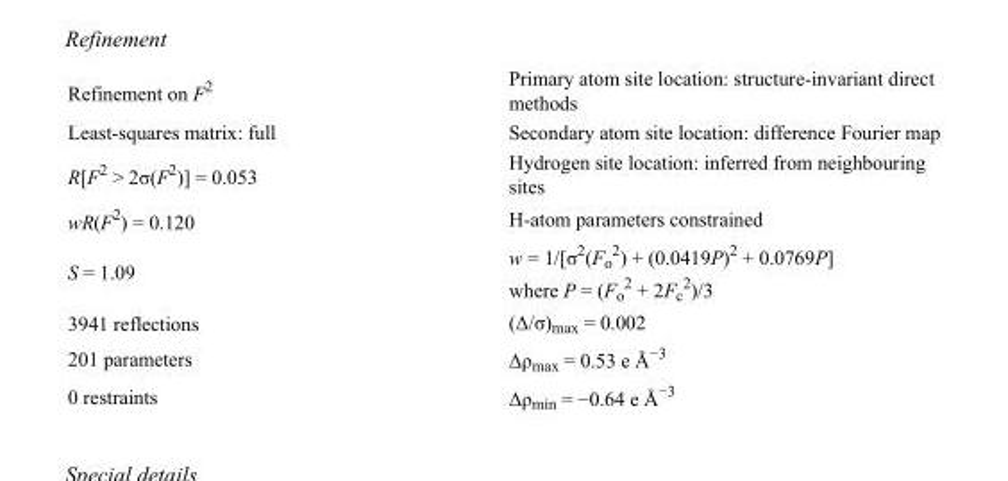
<table><tbody><tr><td>Refinement on F<sup>2</sup></td><td>Primary atom site location: structure-invariant direct methods</td></tr><tr><td>Least-squares matrix: full</td><td>Secondary atom site location: difference Fourier map</td></tr><tr><td>R[F<sup>2</sup> &gt; 2σ(F<sup>2</sup>)] = 0.053</td><td>Hydrogen site location: inferred from neighbouring sites</td></tr><tr><td>wR(F<sup>2</sup>) = 0.120</td><td>H-atom parameters constrained</td></tr><tr><td>S = 1.09</td><td>w = 1/[σ<sup>2</sup>(F<sub>o</sub> <sup>2</sup>) + (0.0419P)<sup>2</sup> + 0.0769P] where P = (F<sub>o</sub> <sup>2</sup> + 2F<sub>c</sub> <sup>2</sup>)/3</td></tr><tr><td>3941 reflections</td><td>(Δ/σ)<sub>max</sub> = 0.002</td></tr><tr><td>201 parameters</td><td>Δρ<sub>max</sub> = 0.53 e Å<sup>−3</sup></td></tr><tr><td>0 restraints</td><td>Δρ<sub>min</sub> = −0.64 e Å<sup>−3</sup></td></tr></tbody></table>